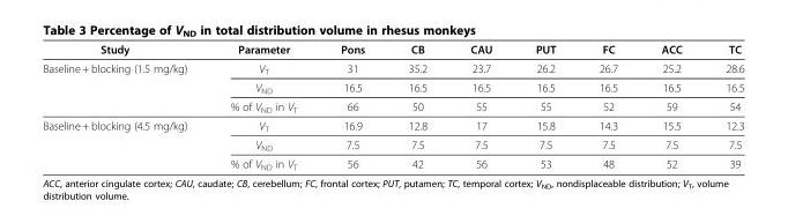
<table><thead><tr><td>Study</td><td>Parameter</td><td>Pons</td><td>CB</td><td>CAU</td><td>PUT</td><td>FC</td><td>ACC</td><td>TC</td></tr></thead><tbody><tr><td rowspan="3">Baseline + blocking (1.5 mg/kg)</td><td>V<sub>T</sub></td><td>31</td><td>35.2</td><td>23.7</td><td>26.2</td><td>26.7</td><td>25.2</td><td>28.6</td></tr><tr><td>V<sub>ND</sub></td><td>16.5</td><td>16.5</td><td>16.5</td><td>16.5</td><td>16.5</td><td>16.5</td><td>16.5</td></tr><tr><td>% of V<sub>ND</sub> in V<sub>T</sub></td><td>66</td><td>50</td><td>55</td><td>55</td><td>52</td><td>59</td><td>54</td></tr><tr><td rowspan="3">Baseline + blocking (4.5 mg/kg)</td><td>V<sub>T</sub></td><td>16.9</td><td>12.8</td><td>17</td><td>15.8</td><td>14.3</td><td>15.5</td><td>12.3</td></tr><tr><td>V<sub>ND</sub></td><td>7.5</td><td>7.5</td><td>7.5</td><td>7.5</td><td>7.5</td><td>7.5</td><td>7.5</td></tr><tr><td>% of V<sub>ND</sub> in V<sub>T</sub></td><td>56</td><td>42</td><td>56</td><td>53</td><td>48</td><td>52</td><td>39</td></tr></tbody></table>